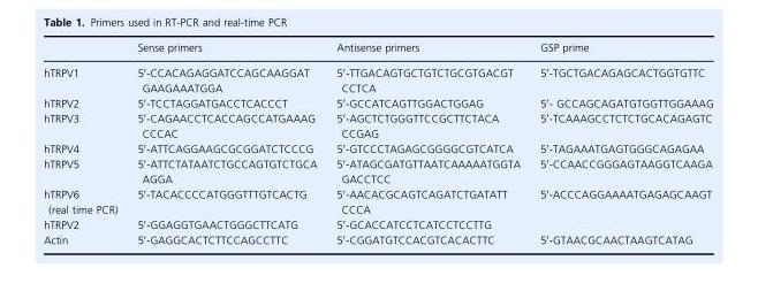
<table><thead><tr><td></td><td>Sense primers</td><td>Antisense primers</td><td>GSP prime</td></tr></thead><tbody><tr><td>hTRPV1</td><td>5′-CCACAGAGGATCCAGCAAGGAT GAAGAAATGGA</td><td>5′-TTGACAGTGCTGTCTGCGTGACGT CCTCA</td><td>5′-TGCTGACAGAGCACTGGTGTTC</td></tr><tr><td>hTRPV2</td><td>5′-TCCTAGGATGACCTCACCCT</td><td>5′-GCCATCAGTTGGACTGGAG</td><td>5′- GCCAGCAGATGTGGTTGGAAAG</td></tr><tr><td>hTRPV3</td><td>5′-CAGAACCTCACCAGCCATGAAAG CCCAC</td><td>5′-AGCTCTGGGTTCCGCTTCTACA CCGAG</td><td>5′-TCAAAGCCTCTCTGCACAGAGTC</td></tr><tr><td>hTRPV4</td><td>5′-ATTCAGGAAGCGCGGATCTCCCG</td><td>5′-GTCCCTAGAGCGGGGCGTCATCA</td><td>5′-TAGAAATGAGTGGGCAGAGAA</td></tr><tr><td>hTRPV5</td><td>5′-ATTCTATAATCTGCCAGTGTCTGCA AGGA</td><td>5′-ATAGCGATGTTAATCAAAAATGGTA GACCTCC</td><td>5′-CCAACCGGGAGTAAGGTCAAGA</td></tr><tr><td>hTRPV6 (real time PCR)</td><td>5′-TACACCCCATGGGTTTGTCACTG</td><td>5′-AACACGCAGTCAGATCTGATATT CCCA</td><td>5′-ACCCAGGAAAATGAGAGCAAGT</td></tr><tr><td>hTRPV2</td><td>5′-GGAGGTGAACTGGGCTTCATG</td><td>5′-GCACCATCCTCATCCTCCTTG</td><td></td></tr><tr><td>Actin</td><td>5′-GAGGCACTCTTCCAGCCTTC</td><td>5′-CGGATGTCCACGTCACACTTC</td><td>5′-GTAACGCAACTAAGTCATAG</td></tr></tbody></table>